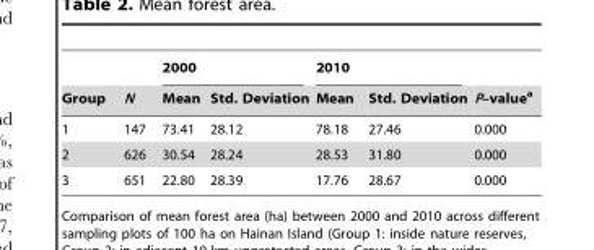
<table><thead><tr><td rowspan="2">Group</td><td rowspan="2">N</td><td colspan="2">2000</td><td colspan="2">2010</td><td rowspan="2">P–value<sup>a</sup></td></tr><tr><td>Mean</td><td>Std. Deviation</td><td>Mean</td><td>Std. Deviation</td></tr></thead><tbody><tr><td>1</td><td>147</td><td>73.41</td><td>28.12</td><td>78.18</td><td>27.46</td><td>0.000</td></tr><tr><td>2</td><td>626</td><td>30.54</td><td>28.24</td><td>28.53</td><td>31.80</td><td>0.000</td></tr><tr><td>3</td><td>651</td><td>22.80</td><td>28.39</td><td>17.76</td><td>28.67</td><td>0.000</td></tr></tbody></table>